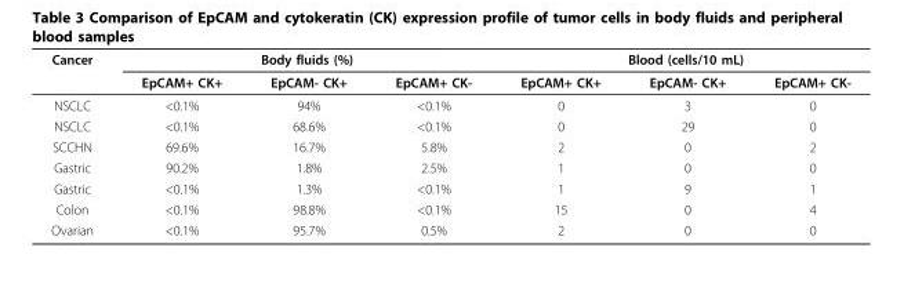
<table><thead><tr><td rowspan="2">Cancer</td><td colspan="3">Body fluids (%)</td><td colspan="3">Blood (cells/10 mL)</td></tr><tr><td>EpCAM+ CK+</td><td>EpCAM- CK+</td><td>EpCAM+ CK-</td><td>EpCAM+ CK+</td><td>EpCAM- CK+</td><td>EpCAM+ CK-</td></tr></thead><tbody><tr><td>NSCLC</td><td>&lt;0.1%</td><td>94%</td><td>&lt;0.1%</td><td>0</td><td>3</td><td>0</td></tr><tr><td>NSCLC</td><td>&lt;0.1%</td><td>68.6%</td><td>&lt;0.1%</td><td>0</td><td>29</td><td>0</td></tr><tr><td>SCCHN</td><td>69.6%</td><td>16.7%</td><td>5.8%</td><td>2</td><td>0</td><td>2</td></tr><tr><td>Gastric</td><td>90.2%</td><td>1.8%</td><td>2.5%</td><td>1</td><td>0</td><td>0</td></tr><tr><td>Gastric</td><td>&lt;0.1%</td><td>1.3%</td><td>&lt;0.1%</td><td>1</td><td>9</td><td>1</td></tr><tr><td>Colon</td><td>&lt;0.1%</td><td>98.8%</td><td>&lt;0.1%</td><td>15</td><td>0</td><td>4</td></tr><tr><td>Ovarian</td><td>&lt;0.1%</td><td>95.7%</td><td>0.5%</td><td>2</td><td>0</td><td>0</td></tr></tbody></table>